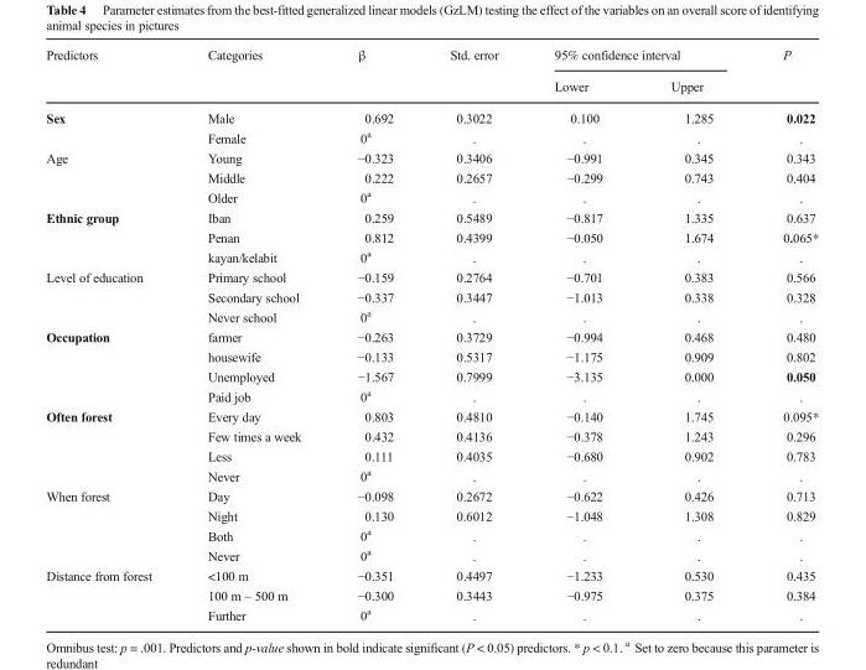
<table><thead><tr><td rowspan="2">Predictors</td><td rowspan="2">Categories</td><td rowspan="2">β</td><td rowspan="2">Std. error</td><td colspan="2">95% confidence interval</td><td rowspan="2">P</td></tr><tr><td>Lower</td><td>Upper</td></tr></thead><tbody><tr><td rowspan="2">Sex</td><td>Male</td><td>0.692</td><td>0.3022</td><td>0.100</td><td>1.285</td><td>0.022</td></tr><tr><td>Female</td><td>0<sup>a</sup></td><td>.</td><td>.</td><td>.</td><td>.</td></tr><tr><td rowspan="3">Age</td><td>Young</td><td>−0.323</td><td>0.3406</td><td>−0.991</td><td>0.345</td><td>0.343</td></tr><tr><td>Middle</td><td>0.222</td><td>0.2657</td><td>−0.299</td><td>0.743</td><td>0.404</td></tr><tr><td>Older</td><td>0<sup>a</sup></td><td>.</td><td>.</td><td>.</td><td>.</td></tr><tr><td rowspan="3">Ethnic group</td><td>Iban</td><td>0.259</td><td>0.5489</td><td>−0.817</td><td>1.335</td><td>0.637</td></tr><tr><td>Penan</td><td>0.812</td><td>0.4399</td><td>−0.050</td><td>1.674</td><td>0.065*</td></tr><tr><td>kayan/kelabit</td><td>0<sup>a</sup></td><td>.</td><td>.</td><td>.</td><td>.</td></tr><tr><td rowspan="3">Level of education</td><td>Primary school</td><td>−0.159</td><td>0.2764</td><td>−0.701</td><td>0.383</td><td>0.566</td></tr><tr><td>Secondary school</td><td>−0.337</td><td>0.3447</td><td>−1.013</td><td>0.338</td><td>0.328</td></tr><tr><td>Never school</td><td>0<sup>a</sup></td><td>.</td><td>.</td><td>.</td><td>.</td></tr><tr><td rowspan="4">Occupation</td><td>farmer</td><td>−0.263</td><td>0.3729</td><td>−0.994</td><td>0.468</td><td>0.480</td></tr><tr><td>housewife</td><td>−0.133</td><td>0.5317</td><td>−1.175</td><td>0.909</td><td>0.802</td></tr><tr><td>Unemployed</td><td>−1.567</td><td>0.7999</td><td>−3.135</td><td>0.000</td><td>0.050</td></tr><tr><td>Paid job</td><td>0<sup>a</sup></td><td>.</td><td>.</td><td>.</td><td>.</td></tr><tr><td rowspan="4">Often forest</td><td>Every day</td><td>0.803</td><td>0.4810</td><td>−0.140</td><td>1.745</td><td>0.095*</td></tr><tr><td>Few times a week</td><td>0.432</td><td>0.4136</td><td>−0.378</td><td>1.243</td><td>0.296</td></tr><tr><td>Less</td><td>0.111</td><td>0.4035</td><td>−0.680</td><td>0.902</td><td>0.783</td></tr><tr><td>Never</td><td>0<sup>a</sup></td><td>.</td><td>.</td><td>.</td><td>.</td></tr><tr><td rowspan="4">When forest</td><td>Day</td><td>−0.098</td><td>0.2672</td><td>−0.622</td><td>0.426</td><td>0.713</td></tr><tr><td>Night</td><td>0.130</td><td>0.6012</td><td>−1.048</td><td>1.308</td><td>0.829</td></tr><tr><td>Both</td><td>0<sup>a</sup></td><td>.</td><td>.</td><td>.</td><td>.</td></tr><tr><td>Never</td><td>0<sup>a</sup></td><td>.</td><td>.</td><td>.</td><td>.</td></tr><tr><td rowspan="3">Distance from forest</td><td>&lt;100 m</td><td>−0.351</td><td>0.4497</td><td>−1.233</td><td>0.530</td><td>0.435</td></tr><tr><td>100 m – 500 m</td><td>−0.300</td><td>0.3443</td><td>−0.975</td><td>0.375</td><td>0.384</td></tr><tr><td>Further</td><td>0<sup>a</sup></td><td>.</td><td>.</td><td>.</td><td>.</td></tr></tbody></table>